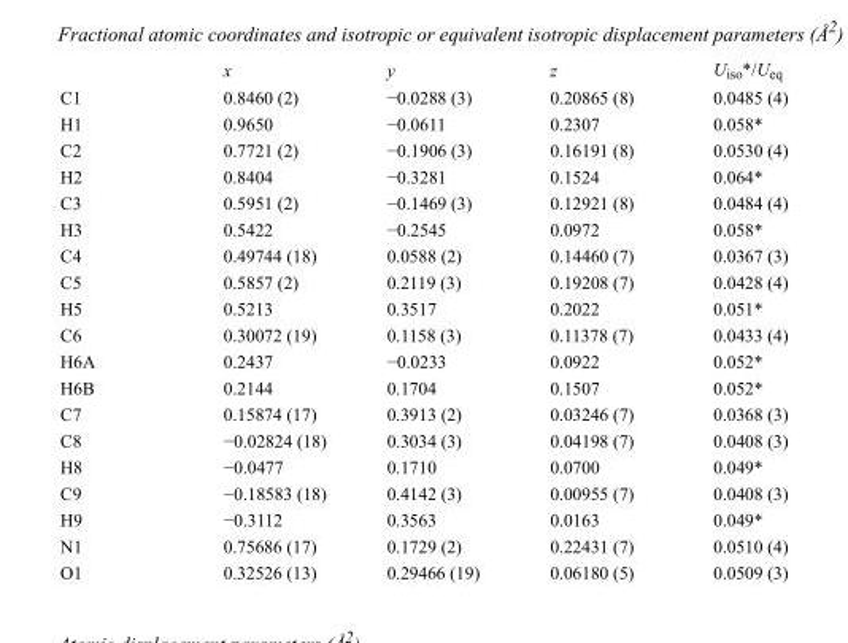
<table><thead><tr><td></td><td>x</td><td>y</td><td>z</td><td>U<sub>iso</sub>*/U<sub>eq</sub></td></tr></thead><tbody><tr><td>C1</td><td>0.8460 (2)</td><td>−0.0288 (3)</td><td>0.20865 (8)</td><td>0.0485 (4)</td></tr><tr><td>H1</td><td>0.9650</td><td>−0.0611</td><td>0.2307</td><td>0.058*</td></tr><tr><td>C2</td><td>0.7721 (2)</td><td>−0.1906 (3)</td><td>0.16191 (8)</td><td>0.0530 (4)</td></tr><tr><td>H2</td><td>0.8404</td><td>−0.3281</td><td>0.1524</td><td>0.064*</td></tr><tr><td>C3</td><td>0.5951 (2)</td><td>−0.1469 (3)</td><td>0.12921 (8)</td><td>0.0484 (4)</td></tr><tr><td>H3</td><td>0.5422</td><td>−0.2545</td><td>0.0972</td><td>0.058*</td></tr><tr><td>C4</td><td>0.49744 (18)</td><td>0.0588 (2)</td><td>0.14460 (7)</td><td>0.0367 (3)</td></tr><tr><td>C5</td><td>0.5857 (2)</td><td>0.2119 (3)</td><td>0.19208 (7)</td><td>0.0428 (4)</td></tr><tr><td>H5</td><td>0.5213</td><td>0.3517</td><td>0.2022</td><td>0.051*</td></tr><tr><td>C6</td><td>0.30072 (19)</td><td>0.1158 (3)</td><td>0.11378 (7)</td><td>0.0433 (4)</td></tr><tr><td>H6A</td><td>0.2437</td><td>−0.0233</td><td>0.0922</td><td>0.052*</td></tr><tr><td>H6B</td><td>0.2144</td><td>0.1704</td><td>0.1507</td><td>0.052*</td></tr><tr><td>C7</td><td>0.15874 (17)</td><td>0.3913 (2)</td><td>0.03246 (7)</td><td>0.0368 (3)</td></tr><tr><td>C8</td><td>−0.02824 (18)</td><td>0.3034 (3)</td><td>0.04198 (7)</td><td>0.0408 (3)</td></tr><tr><td>H8</td><td>−0.0477</td><td>0.1710</td><td>0.0700</td><td>0.049*</td></tr><tr><td>C9</td><td>−0.18583 (18)</td><td>0.4142 (3)</td><td>0.00955 (7)</td><td>0.0408 (3)</td></tr><tr><td>H9</td><td>−0.3112</td><td>0.3563</td><td>0.0163</td><td>0.049*</td></tr><tr><td>N1</td><td>0.75686 (17)</td><td>0.1729 (2)</td><td>0.22431 (7)</td><td>0.0510 (4)</td></tr><tr><td>O1</td><td>0.32526 (13)</td><td>0.29466 (19)</td><td>0.06180 (5)</td><td>0.0509 (3)</td></tr></tbody></table>